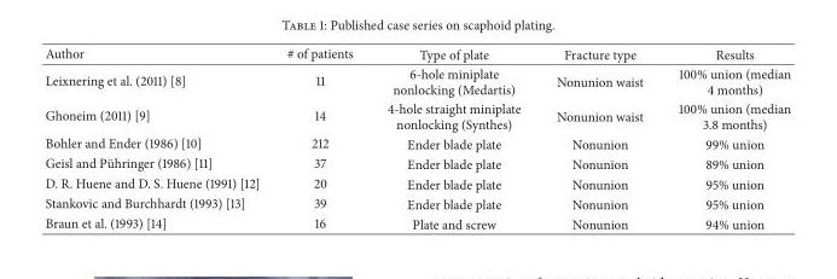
<table><thead><tr><td>Author</td><td># of patients</td><td>Type of plate</td><td>Fracture type</td><td>Results</td></tr></thead><tbody><tr><td>Leixnering et al. (2011) [8]</td><td>11</td><td>6-hole miniplate nonlocking (Medartis)</td><td>Nonunion waist</td><td>100% union (median 4 months)</td></tr><tr><td>Ghoneim (2011) [9]</td><td>14</td><td>4-hole straight miniplate nonlocking (Synthes)</td><td>Nonunion waist</td><td>100% union (median 3.8 months)</td></tr><tr><td>Bohler and Ender (1986) [10]</td><td>212</td><td>Ender blade plate</td><td>Nonunion</td><td>99% union</td></tr><tr><td>Geisl and P¨uhringer (1986) [11]</td><td>37</td><td>Ender blade plate</td><td>Nonunion</td><td>89% union</td></tr><tr><td>D. R. Huene and D. S. Huene (1991) [12]</td><td>20</td><td>Ender blade plate</td><td>Nonunion</td><td>95% union</td></tr><tr><td>Stankovic and Burchhardt (1993) [13]</td><td>39</td><td>Ender blade plate</td><td>Nonunion</td><td>95% union</td></tr><tr><td>Braun et al. (1993) [14]</td><td>16</td><td>Plate and screw</td><td>Nonunion</td><td>94% union</td></tr></tbody></table>